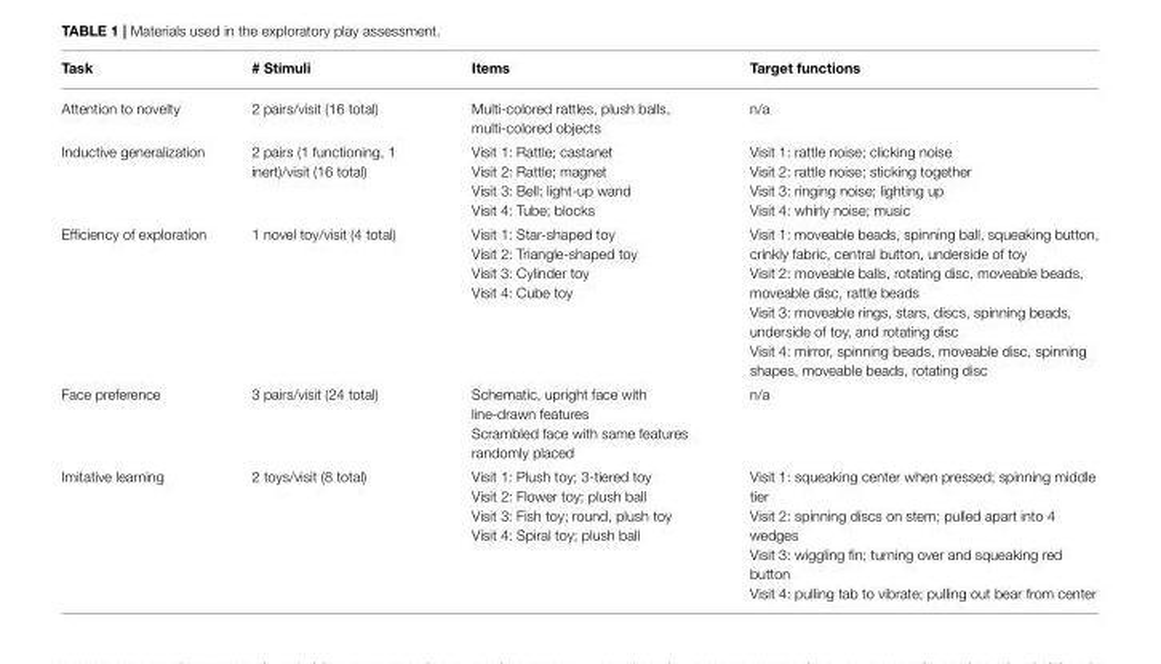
<table><thead><tr><td>Task</td><td># Stimuli</td><td>Items</td><td>Target functions</td></tr></thead><tbody><tr><td>Attention to novelty</td><td>2 pairs/visit (16 total)</td><td>Multi-colored rattles, plush balls, multi-colored objects</td><td>n/a</td></tr><tr><td>Inductive generalization</td><td>2 pairs (1 functioning, 1 inert)/visit (16 total)</td><td>Visit 1: Rattle; castanet Visit 2: Rattle; magnet Visit 3: Bell; light-up wand Visit 4: Tube; blocks</td><td>Visit 1: rattle noise; clicking noise Visit 2: rattle noise; sticking together Visit 3: ringing noise; lighting up Visit 4: whirly noise; music</td></tr><tr><td>Efficiency of exploration</td><td>1 novel toy/visit (4 total)</td><td>Visit 1: Star-shaped toy Visit 2: Triangle-shaped toy Visit 3: Cylinder toy Visit 4: Cube toy</td><td>Visit 1: moveable beads, spinning ball, squeaking button, crinkly fabric, central button, underside of toy Visit 2: moveable balls, rotating disc, moveable beads, moveable disc, rattle beads Visit 3: moveable rings, stars, discs, spinning beads, underside of toy, and rotating disc Visit 4: mirror, spinning beads, moveable disc, spinning shapes, moveable beads, rotating disc</td></tr><tr><td>Face preference</td><td>3 pairs/visit (24 total)</td><td>Schematic, upright face with line-drawn features Scrambled face with same features randomly placed</td><td>n/a</td></tr><tr><td>Imitative learning</td><td>2 toys/visit (8 total)</td><td>Visit 1: Plush toy; 3-tiered toy Visit 2: Flower toy; plush ball Visit 3: Fish toy; round, plush toy Visit 4: Spiral toy; plush ball</td><td>Visit 1: squeaking center when pressed; spinning middle tier Visit 2: spinning discs on stem; pulled apart into 4 wedges Visit 3: wiggling fin; turning over and squeaking red button Visit 4: pulling tab to vibrate; pulling out bear from center</td></tr></tbody></table>